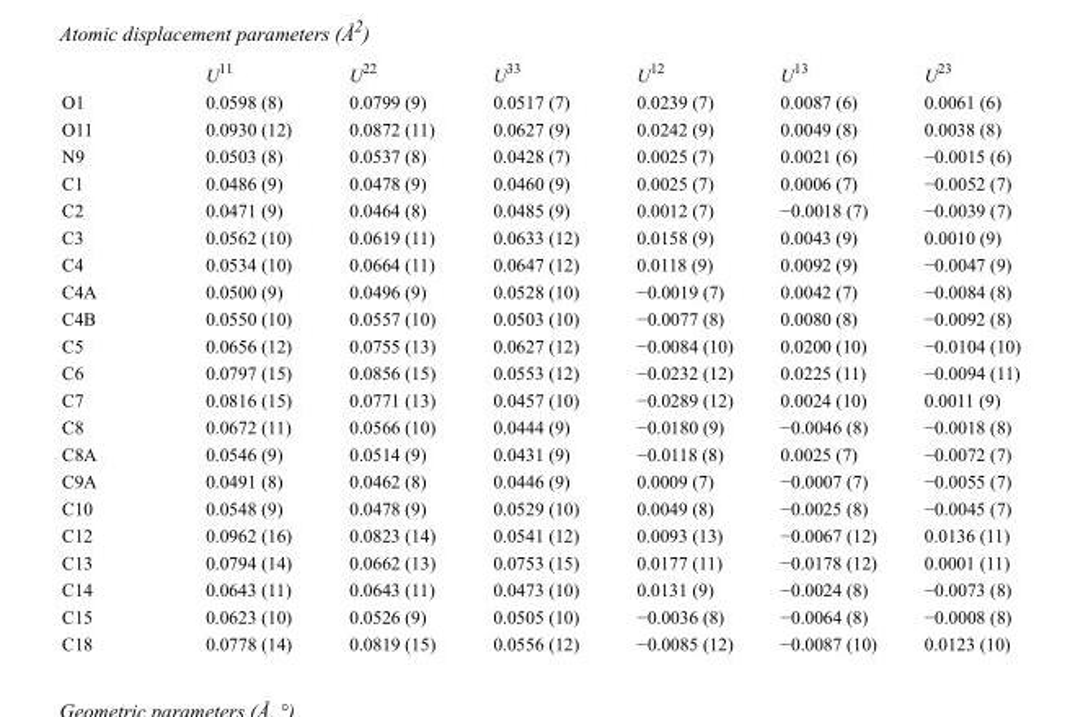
<table><thead><tr><td></td><td>U<sup>11</sup></td><td>U<sup>22</sup></td><td>U<sup>33</sup></td><td>U<sup>12</sup></td><td>U<sup>13</sup></td><td>U<sup>23</sup></td></tr></thead><tbody><tr><td>O1</td><td>0.0598 (8)</td><td>0.0799 (9)</td><td>0.0517 (7)</td><td>0.0239 (7)</td><td>0.0087 (6)</td><td>0.0061 (6)</td></tr><tr><td>O11</td><td>0.0930 (12)</td><td>0.0872 (11)</td><td>0.0627 (9)</td><td>0.0242 (9)</td><td>0.0049 (8)</td><td>0.0038 (8)</td></tr><tr><td>N9</td><td>0.0503 (8)</td><td>0.0537 (8)</td><td>0.0428 (7)</td><td>0.0025 (7)</td><td>0.0021 (6)</td><td>−0.0015 (6)</td></tr><tr><td>C1</td><td>0.0486 (9)</td><td>0.0478 (9)</td><td>0.0460 (9)</td><td>0.0025 (7)</td><td>0.0006 (7)</td><td>−0.0052 (7)</td></tr><tr><td>C2</td><td>0.0471 (9)</td><td>0.0464 (8)</td><td>0.0485 (9)</td><td>0.0012 (7)</td><td>−0.0018 (7)</td><td>−0.0039 (7)</td></tr><tr><td>C3</td><td>0.0562 (10)</td><td>0.0619 (11)</td><td>0.0633 (12)</td><td>0.0158 (9)</td><td>0.0043 (9)</td><td>0.0010 (9)</td></tr><tr><td>C4</td><td>0.0534 (10)</td><td>0.0664 (11)</td><td>0.0647 (12)</td><td>0.0118 (9)</td><td>0.0092 (9)</td><td>−0.0047 (9)</td></tr><tr><td>C4A</td><td>0.0500 (9)</td><td>0.0496 (9)</td><td>0.0528 (10)</td><td>−0.0019 (7)</td><td>0.0042 (7)</td><td>−0.0084 (8)</td></tr><tr><td>C4B</td><td>0.0550 (10)</td><td>0.0557 (10)</td><td>0.0503 (10)</td><td>−0.0077 (8)</td><td>0.0080 (8)</td><td>−0.0092 (8)</td></tr><tr><td>C5</td><td>0.0656 (12)</td><td>0.0755 (13)</td><td>0.0627 (12)</td><td>−0.0084 (10)</td><td>0.0200 (10)</td><td>−0.0104 (10)</td></tr><tr><td>C6</td><td>0.0797 (15)</td><td>0.0856 (15)</td><td>0.0553 (12)</td><td>−0.0232 (12)</td><td>0.0225 (11)</td><td>−0.0094 (11)</td></tr><tr><td>C7</td><td>0.0816 (15)</td><td>0.0771 (13)</td><td>0.0457 (10)</td><td>−0.0289 (12)</td><td>0.0024 (10)</td><td>0.0011 (9)</td></tr><tr><td>C8</td><td>0.0672 (11)</td><td>0.0566 (10)</td><td>0.0444 (9)</td><td>−0.0180 (9)</td><td>−0.0046 (8)</td><td>−0.0018 (8)</td></tr><tr><td>C8A</td><td>0.0546 (9)</td><td>0.0514 (9)</td><td>0.0431 (9)</td><td>−0.0118 (8)</td><td>0.0025 (7)</td><td>−0.0072 (7)</td></tr><tr><td>C9A</td><td>0.0491 (8)</td><td>0.0462 (8)</td><td>0.0446 (9)</td><td>0.0009 (7)</td><td>−0.0007 (7)</td><td>−0.0055 (7)</td></tr><tr><td>C10</td><td>0.0548 (9)</td><td>0.0478 (9)</td><td>0.0529 (10)</td><td>0.0049 (8)</td><td>−0.0025 (8)</td><td>−0.0045 (7)</td></tr><tr><td>C12</td><td>0.0962 (16)</td><td>0.0823 (14)</td><td>0.0541 (12)</td><td>0.0093 (13)</td><td>−0.0067 (12)</td><td>0.0136 (11)</td></tr><tr><td>C13</td><td>0.0794 (14)</td><td>0.0662 (13)</td><td>0.0753 (15)</td><td>0.0177 (11)</td><td>−0.0178 (12)</td><td>0.0001 (11)</td></tr><tr><td>C14</td><td>0.0643 (11)</td><td>0.0643 (11)</td><td>0.0473 (10)</td><td>0.0131 (9)</td><td>−0.0024 (8)</td><td>−0.0073 (8)</td></tr><tr><td>C15</td><td>0.0623 (10)</td><td>0.0526 (9)</td><td>0.0505 (10)</td><td>−0.0036 (8)</td><td>−0.0064 (8)</td><td>−0.0008 (8)</td></tr><tr><td>C18</td><td>0.0778 (14)</td><td>0.0819 (15)</td><td>0.0556 (12)</td><td>−0.0085 (12)</td><td>−0.0087 (10)</td><td>0.0123 (10)</td></tr></tbody></table>